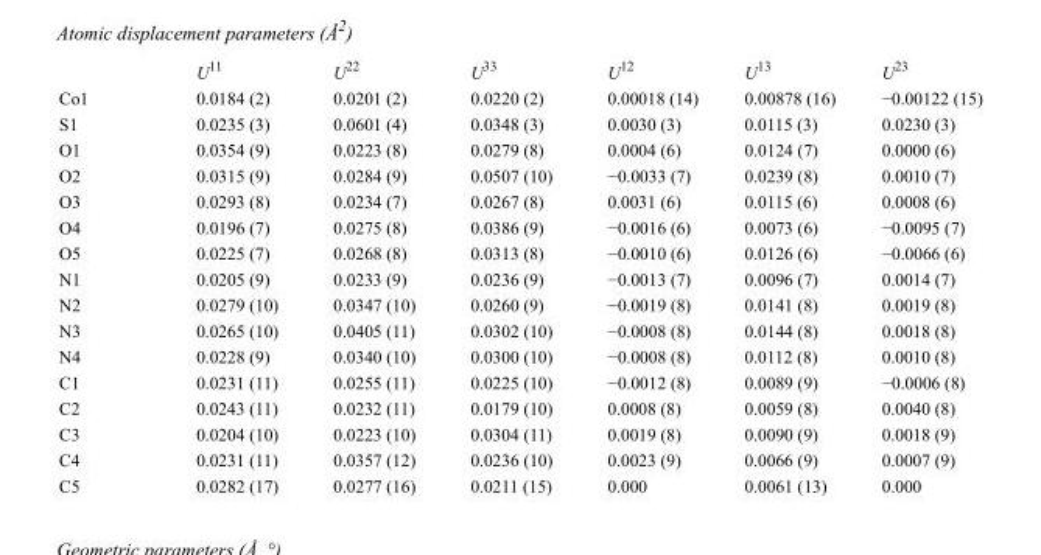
<table><thead><tr><td></td><td>U<sup>11</sup></td><td>U<sup>22</sup></td><td>U<sup>33</sup></td><td>U<sup>12</sup></td><td>U<sup>13</sup></td><td>U<sup>23</sup></td></tr></thead><tbody><tr><td>Co1</td><td>0.0184 (2)</td><td>0.0201 (2)</td><td>0.0220 (2)</td><td>0.00018 (14)</td><td>0.00878 (16)</td><td>−0.00122 (15)</td></tr><tr><td>S1</td><td>0.0235 (3)</td><td>0.0601 (4)</td><td>0.0348 (3)</td><td>0.0030 (3)</td><td>0.0115 (3)</td><td>0.0230 (3)</td></tr><tr><td>O1</td><td>0.0354 (9)</td><td>0.0223 (8)</td><td>0.0279 (8)</td><td>0.0004 (6)</td><td>0.0124 (7)</td><td>0.0000 (6)</td></tr><tr><td>O2</td><td>0.0315 (9)</td><td>0.0284 (9)</td><td>0.0507 (10)</td><td>−0.0033 (7)</td><td>0.0239 (8)</td><td>0.0010 (7)</td></tr><tr><td>O3</td><td>0.0293 (8)</td><td>0.0234 (7)</td><td>0.0267 (8)</td><td>0.0031 (6)</td><td>0.0115 (6)</td><td>0.0008 (6)</td></tr><tr><td>O4</td><td>0.0196 (7)</td><td>0.0275 (8)</td><td>0.0386 (9)</td><td>−0.0016 (6)</td><td>0.0073 (6)</td><td>−0.0095 (7)</td></tr><tr><td>O5</td><td>0.0225 (7)</td><td>0.0268 (8)</td><td>0.0313 (8)</td><td>−0.0010 (6)</td><td>0.0126 (6)</td><td>−0.0066 (6)</td></tr><tr><td>N1</td><td>0.0205 (9)</td><td>0.0233 (9)</td><td>0.0236 (9)</td><td>−0.0013 (7)</td><td>0.0096 (7)</td><td>0.0014 (7)</td></tr><tr><td>N2</td><td>0.0279 (10)</td><td>0.0347 (10)</td><td>0.0260 (9)</td><td>−0.0019 (8)</td><td>0.0141 (8)</td><td>0.0019 (8)</td></tr><tr><td>N3</td><td>0.0265 (10)</td><td>0.0405 (11)</td><td>0.0302 (10)</td><td>−0.0008 (8)</td><td>0.0144 (8)</td><td>0.0018 (8)</td></tr><tr><td>N4</td><td>0.0228 (9)</td><td>0.0340 (10)</td><td>0.0300 (10)</td><td>−0.0008 (8)</td><td>0.0112 (8)</td><td>0.0010 (8)</td></tr><tr><td>C1</td><td>0.0231 (11)</td><td>0.0255 (11)</td><td>0.0225 (10)</td><td>−0.0012 (8)</td><td>0.0089 (9)</td><td>−0.0006 (8)</td></tr><tr><td>C2</td><td>0.0243 (11)</td><td>0.0232 (11)</td><td>0.0179 (10)</td><td>0.0008 (8)</td><td>0.0059 (8)</td><td>0.0040 (8)</td></tr><tr><td>C3</td><td>0.0204 (10)</td><td>0.0223 (10)</td><td>0.0304 (11)</td><td>0.0019 (8)</td><td>0.0090 (9)</td><td>0.0018 (9)</td></tr><tr><td>C4</td><td>0.0231 (11)</td><td>0.0357 (12)</td><td>0.0236 (10)</td><td>0.0023 (9)</td><td>0.0066 (9)</td><td>0.0007 (9)</td></tr><tr><td>C5</td><td>0.0282 (17)</td><td>0.0277 (16)</td><td>0.0211 (15)</td><td>0.000</td><td>0.0061 (13)</td><td>0.000</td></tr></tbody></table>